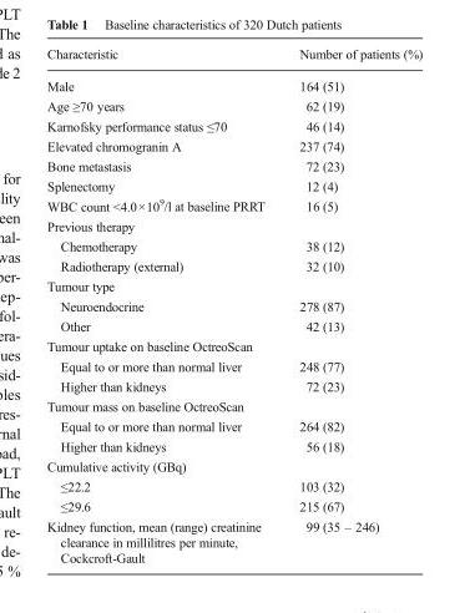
<table><thead><tr><td>Characteristic</td><td>Number of patients (%)</td></tr></thead><tbody><tr><td>Male</td><td>164 (51)</td></tr><tr><td>Age ≥70 years</td><td>62 (19)</td></tr><tr><td>Karnofsky performance status ≤70</td><td>46 (14)</td></tr><tr><td>Elevated chromogranin A</td><td>237 (74)</td></tr><tr><td>Bone metastasis</td><td>72 (23)</td></tr><tr><td>Splenectomy</td><td>12 (4)</td></tr><tr><td>WBC count &lt;4.0×10<sup>9</sup>/l at baseline PRRT</td><td>16 (5)</td></tr><tr><td colspan="2">Previous therapy</td></tr><tr><td>Chemotherapy</td><td>38 (12)</td></tr><tr><td>Radiotherapy (external)</td><td>32 (10)</td></tr><tr><td colspan="2">Tumour type</td></tr><tr><td>Neuroendocrine</td><td>278 (87)</td></tr><tr><td>Other</td><td>42 (13)</td></tr><tr><td colspan="2">Tumour uptake on baseline OctreoScan</td></tr><tr><td>Equal to or more than normal liver</td><td>248 (77)</td></tr><tr><td>Higher than kidneys</td><td>72 (23)</td></tr><tr><td colspan="2">Tumour mass on baseline OctreoScan</td></tr><tr><td>Equal to or more than normal liver</td><td>264 (82)</td></tr><tr><td>Higher than kidneys</td><td>56 (18)</td></tr><tr><td colspan="2">Cumulative activity (GBq)</td></tr><tr><td>≤22.2</td><td>103 (32)</td></tr><tr><td>≤29.6</td><td>215 (67)</td></tr><tr><td>Kidney function, mean (range) creatinine clearance in millilitres per minute, Cockcroft-Gault</td><td>99 (35 – 246)</td></tr></tbody></table>